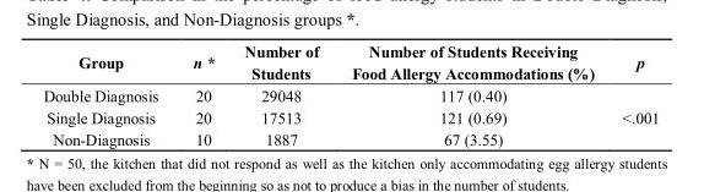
<table><thead><tr><td>Group</td><td>n *</td><td>Number of Students</td><td>Number of Students Receiving Food Allergy Accommodations (%)</td><td>p</td></tr></thead><tbody><tr><td>Double Diagnosis</td><td>20</td><td>29048</td><td>117 (0.40)</td><td></td></tr><tr><td>Single Diagnosis</td><td>20</td><td>17513</td><td>121 (0.69)</td><td>&lt;.001</td></tr><tr><td>Non-Diagnosis</td><td>10</td><td>1887</td><td>67 (3.55)</td><td></td></tr></tbody></table>